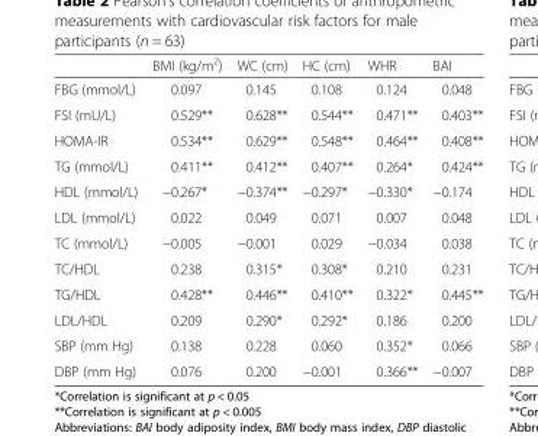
<table><thead><tr><td></td><td>BMI (kg/m<sup>2</sup>)</td><td>WC (cm)</td><td>HC (cm)</td><td>WHR</td><td>BAI</td></tr></thead><tbody><tr><td>FBG (mmol/L)</td><td>0.097</td><td>0.145</td><td>0.108</td><td>0.124</td><td>0.048</td></tr><tr><td>FSI (mU/L)</td><td>0.529**</td><td>0.628**</td><td>0.544**</td><td>0.471**</td><td>0.403**</td></tr><tr><td>HOMA-IR</td><td>0.534**</td><td>0.629**</td><td>0.548**</td><td>0.464**</td><td>0.408**</td></tr><tr><td>TG (mmol/L)</td><td>0.411**</td><td>0.412**</td><td>0.407**</td><td>0.264*</td><td>0.424**</td></tr><tr><td>HDL (mmol/L)</td><td>−0.267*</td><td>−0.374**</td><td>−0.297*</td><td>−0.330*</td><td>−0.174</td></tr><tr><td>LDL (mmol/L)</td><td>0.022</td><td>0.049</td><td>0.071</td><td>0.007</td><td>0.048</td></tr><tr><td>TC (mmol/L)</td><td>−0.005</td><td>−0.001</td><td>0.029</td><td>−0.034</td><td>0.038</td></tr><tr><td>TC/HDL</td><td>0.238</td><td>0.315*</td><td>0.308*</td><td>0.210</td><td>0.231</td></tr><tr><td>TG/HDL</td><td>0.428**</td><td>0.446**</td><td>0.410**</td><td>0.322*</td><td>0.445**</td></tr><tr><td>LDL/HDL</td><td>0.209</td><td>0.290*</td><td>0.292*</td><td>0.186</td><td>0.200</td></tr><tr><td>SBP (mm Hg)</td><td>0.138</td><td>0.228</td><td>0.060</td><td>0.352*</td><td>0.066</td></tr><tr><td>DBP (mm Hg)</td><td>0.076</td><td>0.200</td><td>−0.001</td><td>0.366**</td><td>−0.007</td></tr></tbody></table>